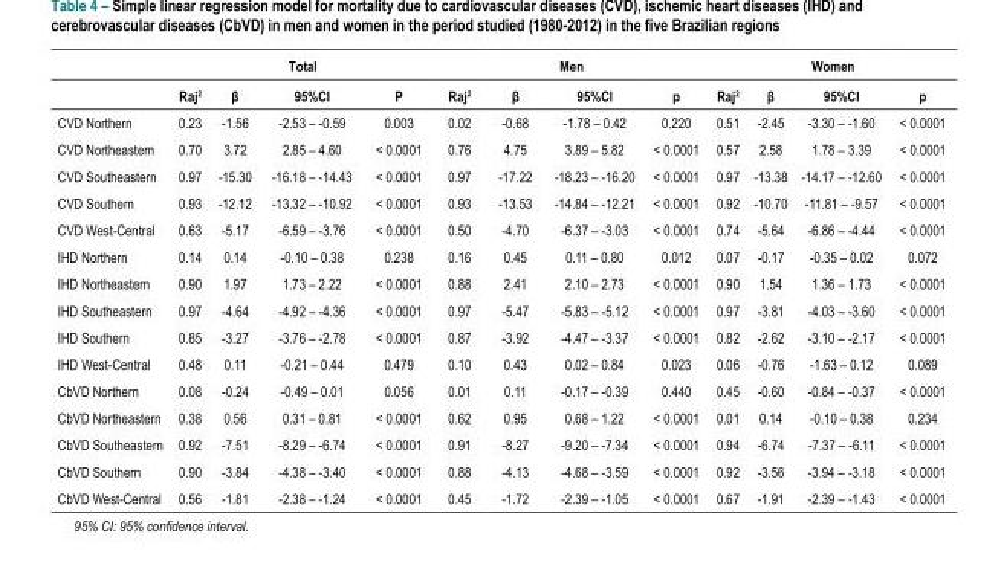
<table><thead><tr><td rowspan="2"></td><td colspan="4">Total</td><td colspan="4">Men</td><td colspan="4">Women</td></tr><tr><td>Raj<sup>2</sup></td><td>β</td><td>95%CI</td><td>P</td><td>Raj<sup>2</sup></td><td>β</td><td>95%CI</td><td>p</td><td>Raj<sup>2</sup></td><td>β</td><td>95%CI</td><td>p</td></tr></thead><tbody><tr><td>CVD Northern</td><td>0.23</td><td>-1.56</td><td>-2.53 – -0.59</td><td>0.003</td><td>0.02</td><td>-0.68</td><td>-1.78 – 0.42</td><td>0.220</td><td>0.51</td><td>-2.45</td><td>-3.30 – -1.60</td><td>&lt; 0.0001</td></tr><tr><td>CVD Northeastern</td><td>0.70</td><td>3.72</td><td>2.85 – 4.60</td><td>&lt; 0.0001</td><td>0.76</td><td>4.75</td><td>3.89 – 5.82</td><td>&lt; 0.0001</td><td>0.57</td><td>2.58</td><td>1.78 – 3.39</td><td>&lt; 0.0001</td></tr><tr><td>CVD Southeastern</td><td>0.97</td><td>-15.30</td><td>-16.18 – -14.43</td><td>&lt; 0.0001</td><td>0.97</td><td>-17.22</td><td>-18.23 – -16.20</td><td>&lt; 0.0001</td><td>0.97</td><td>-13.38</td><td>-14.17 – -12.60</td><td>&lt; 0.0001</td></tr><tr><td>CVD Southern</td><td>0.93</td><td>-12.12</td><td>-13.32 – -10.92</td><td>&lt; 0.0001</td><td>0.93</td><td>-13.53</td><td>-14.84 – -12.21</td><td>&lt; 0.0001</td><td>0.92</td><td>-10.70</td><td>-11.81 – -9.57</td><td>&lt; 0.0001</td></tr><tr><td>CVD West-Central</td><td>0.63</td><td>-5.17</td><td>-6.59 – -3.76</td><td>&lt; 0.0001</td><td>0.50</td><td>-4.70</td><td>-6.37 – -3.03</td><td>&lt; 0.0001</td><td>0.74</td><td>-5.64</td><td>-6.86 – -4.44</td><td>&lt; 0.0001</td></tr><tr><td>IHD Northern</td><td>0.14</td><td>0.14</td><td>-0.10 – 0.38</td><td>0.238</td><td>0.16</td><td>0.45</td><td>0.11 – 0.80</td><td>0.012</td><td>0.07</td><td>-0.17</td><td>-0.35 – 0.02</td><td>0.072</td></tr><tr><td>IHD Northeastern</td><td>0.90</td><td>1.97</td><td>1.73 – 2.22</td><td>&lt; 0.0001</td><td>0.88</td><td>2.41</td><td>2.10 – 2.73</td><td>&lt; 0.0001</td><td>0.90</td><td>1.54</td><td>1.36 – 1.73</td><td>&lt; 0.0001</td></tr><tr><td>IHD Southeastern</td><td>0.97</td><td>-4.64</td><td>-4.92 – -4.36</td><td>&lt; 0.0001</td><td>0.97</td><td>-5.47</td><td>-5.83 – -5.12</td><td>&lt; 0.0001</td><td>0.97</td><td>-3.81</td><td>-4.03 – -3.60</td><td>&lt; 0.0001</td></tr><tr><td>IHD Southern</td><td>0.85</td><td>-3.27</td><td>-3.76 – -2.78</td><td>&lt; 0.0001</td><td>0.87</td><td>-3.92</td><td>-4.47 – -3.37</td><td>&lt; 0.0001</td><td>0.82</td><td>-2.62</td><td>-3.10 – -2.17</td><td>&lt; 0.0001</td></tr><tr><td>IHD West-Central</td><td>0.48</td><td>0.11</td><td>-0.21 – 0.44</td><td>0.479</td><td>0.10</td><td>0.43</td><td>0.02 – 0.84</td><td>0.023</td><td>0.06</td><td>-0.76</td><td>-1.63 – 0.12</td><td>0.089</td></tr><tr><td>CbVD Northern</td><td>0.08</td><td>-0.24</td><td>-0.49 – 0.01</td><td>0.056</td><td>0.01</td><td>0.11</td><td>-0.17 – -0.39</td><td>0.440</td><td>0.45</td><td>-0.60</td><td>-0.84 – -0.37</td><td>&lt; 0.0001</td></tr><tr><td>CbVD Northeastern</td><td>0.38</td><td>0.56</td><td>0.31 – 0.81</td><td>&lt; 0.0001</td><td>0.62</td><td>0.95</td><td>0.68 – 1.22</td><td>&lt; 0.0001</td><td>0.01</td><td>0.14</td><td>-0.10 – 0.38</td><td>0.234</td></tr><tr><td>CbVD Southeastern</td><td>0.92</td><td>-7.51</td><td>-8.29 – -6.74</td><td>&lt; 0.0001</td><td>0.91</td><td>-8.27</td><td>-9.20 – -7.34</td><td>&lt; 0.0001</td><td>0.94</td><td>-6.74</td><td>-7.37 – -6.11</td><td>&lt; 0.0001</td></tr><tr><td>CbVD Southern</td><td>0.90</td><td>-3.84</td><td>-4.38 – -3.40</td><td>&lt; 0.0001</td><td>0.88</td><td>-4.13</td><td>-4.68 – -3.59</td><td>&lt; 0.0001</td><td>0.92</td><td>-3.56</td><td>-3.94 – -3.18</td><td>&lt; 0.0001</td></tr><tr><td>CbVD West-Central</td><td>0.56</td><td>-1.81</td><td>-2.38 – -1.24</td><td>&lt; 0.0001</td><td>0.45</td><td>-1.72</td><td>-2.39 – -1.05</td><td>&lt; 0.0001</td><td>0.67</td><td>-1.91</td><td>-2.39 – -1.43</td><td>&lt; 0.0001</td></tr></tbody></table>